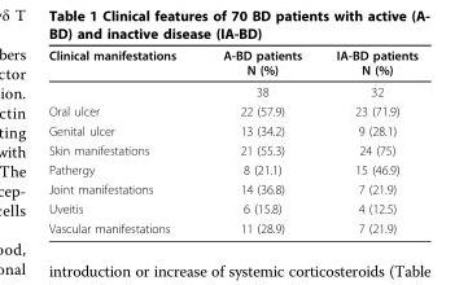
<table><thead><tr><td>Clinical manifestations</td><td>A-BD patients N (%)</td><td>IA-BD patients N (%)</td></tr></thead><tbody><tr><td></td><td>38</td><td>32</td></tr><tr><td>Oral ulcer</td><td>22 (57.9)</td><td>23 (71.9)</td></tr><tr><td>Genital ulcer</td><td>13 (34.2)</td><td>9 (28.1)</td></tr><tr><td>Skin manifestations</td><td>21 (55.3)</td><td>24 (75)</td></tr><tr><td>Pathergy</td><td>8 (21.1)</td><td>15 (46.9)</td></tr><tr><td>Joint manifestations</td><td>14 (36.8)</td><td>7 (21.9)</td></tr><tr><td>Uveitis</td><td>6 (15.8)</td><td>4 (12.5)</td></tr><tr><td>Vascular manifestations</td><td>11 (28.9)</td><td>7 (21.9)</td></tr></tbody></table>